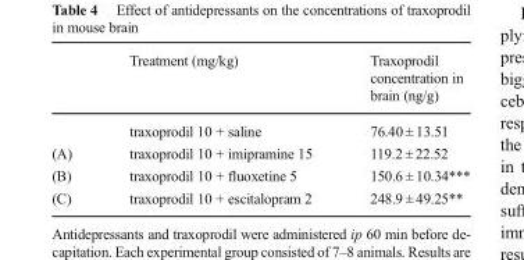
<table><thead><tr><td></td><td>Treatment (mg/kg)</td><td>Traxoprodil concentration in brain (ng/g)</td></tr></thead><tbody><tr><td></td><td>traxoprodil 10 + saline</td><td>76.40 ± 13.51</td></tr><tr><td>(A)</td><td>traxoprodil 10 + imipramine 15</td><td>119.2 ± 22.52</td></tr><tr><td>(B)</td><td>traxoprodil 10 + fluoxetine 5</td><td>150.6 ± 10.34***</td></tr><tr><td>(C)</td><td>traxoprodil 10 + escitalopram 2</td><td>248.9 ± 49.25**</td></tr></tbody></table>